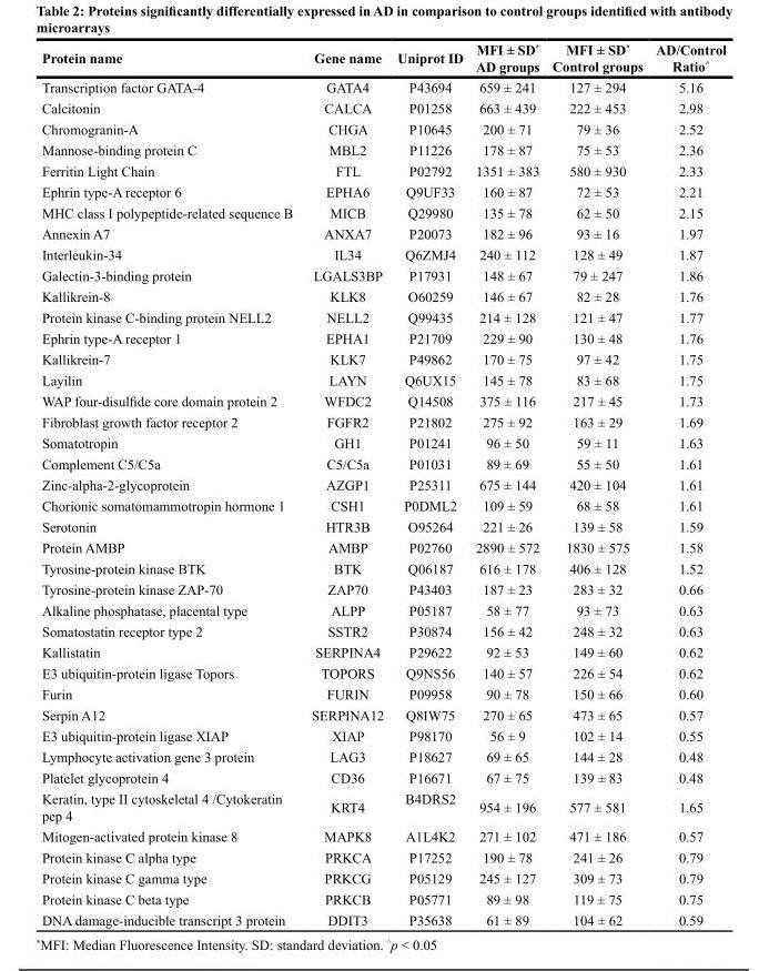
<table><thead><tr><td>Protein name</td><td>Gene name</td><td>Uniprot ID</td><td>MFI ± SD* AD groups</td><td>MFI ± SD* Control groups</td><td>AD/Control Ratio<sup>^</sup></td></tr></thead><tbody><tr><td>Transcription factor GATA-4</td><td>GATA4</td><td>P43694</td><td>659 ± 241</td><td>127 ± 294</td><td>5.16</td></tr><tr><td>Calcitonin</td><td>CALCA</td><td>P01258</td><td>663 ± 439</td><td>222 ± 453</td><td>2.98</td></tr><tr><td>Chromogranin-A</td><td>CHGA</td><td>P10645</td><td>200 ± 71</td><td>79 ± 36</td><td>2.52</td></tr><tr><td>Mannose-binding protein C</td><td>MBL2</td><td>P11226</td><td>178 ± 87</td><td>75 ± 53</td><td>2.36</td></tr><tr><td>Ferritin Light Chain</td><td>FTL</td><td>P02792</td><td>1351 ± 383</td><td>580 ± 930</td><td>2.33</td></tr><tr><td>Ephrin type-A receptor 6</td><td>EPHA6</td><td>Q9UF33</td><td>160 ± 87</td><td>72 ± 53</td><td>2.21</td></tr><tr><td>MHC class I polypeptide-related sequence B</td><td>MICB</td><td>Q29980</td><td>135 ± 78</td><td>62 ± 50</td><td>2.15</td></tr><tr><td>Annexin A7</td><td>ANXA7</td><td>P20073</td><td>182 ± 96</td><td>93 ± 16</td><td>1.97</td></tr><tr><td>Interleukin-34</td><td>IL34</td><td>Q6ZMJ4</td><td>240 ± 112</td><td>128 ± 49</td><td>1.87</td></tr><tr><td>Galectin-3-binding protein</td><td>LGALS3BP</td><td>P17931</td><td>148 ± 67</td><td>79 ± 247</td><td>1.86</td></tr><tr><td>Kallikrein-8</td><td>KLK8</td><td>O60259</td><td>146 ± 67</td><td>82 ± 28</td><td>1.76</td></tr><tr><td>Protein kinase C-binding protein NELL2</td><td>NELL2</td><td>Q99435</td><td>214 ± 128</td><td>121 ± 47</td><td>1.77</td></tr><tr><td>Ephrin type-A receptor 1</td><td>EPHA1</td><td>P21709</td><td>229 ± 90</td><td>130 ± 48</td><td>1.76</td></tr><tr><td>Kallikrein-7</td><td>KLK7</td><td>P49862</td><td>170 ± 75</td><td>97 ± 42</td><td>1.75</td></tr><tr><td>Layilin</td><td>LAYN</td><td>Q6UX15</td><td>145 ± 78</td><td>83 ± 68</td><td>1.75</td></tr><tr><td>WAP four-disulfide core domain protein 2</td><td>WFDC2</td><td>Q14508</td><td>375 ± 116</td><td>217 ± 45</td><td>1.73</td></tr><tr><td>Fibroblast growth factor receptor 2</td><td>FGFR2</td><td>P21802</td><td>275 ± 92</td><td>163 ± 29</td><td>1.69</td></tr><tr><td>Somatotropin</td><td>GH1</td><td>P01241</td><td>96 ± 50</td><td>59 ± 11</td><td>1.63</td></tr><tr><td>Complement C5/C5a</td><td>C5/C5a</td><td>P01031</td><td>89 ± 69</td><td>55 ± 50</td><td>1.61</td></tr><tr><td>Zinc-alpha-2-glycoprotein</td><td>AZGP1</td><td>P25311</td><td>675 ± 144</td><td>420 ± 104</td><td>1.61</td></tr><tr><td>Chorionic somatomammotropin hormone 1</td><td>CSH1</td><td>P0DML2</td><td>109 ± 59</td><td>68 ± 58</td><td>1.61</td></tr><tr><td>Serotonin</td><td>HTR3B</td><td>O95264</td><td>221 ± 26</td><td>139 ± 58</td><td>1.59</td></tr><tr><td>Protein AMBP</td><td>AMBP</td><td>P02760</td><td>2890 ± 572</td><td>1830 ± 575</td><td>1.58</td></tr><tr><td>Tyrosine-protein kinase BTK</td><td>BTK</td><td>Q06187</td><td>616 ± 178</td><td>406 ± 128</td><td>1.52</td></tr><tr><td>Tyrosine-protein kinase ZAP-70</td><td>ZAP70</td><td>P43403</td><td>187 ± 23</td><td>283 ± 32</td><td>0.66</td></tr><tr><td>Alkaline phosphatase, placental type</td><td>ALPP</td><td>P05187</td><td>58 ± 77</td><td>93 ± 73</td><td>0.63</td></tr><tr><td>Somatostatin receptor type 2</td><td>SSTR2</td><td>P30874</td><td>156 ± 42</td><td>248 ± 32</td><td>0.63</td></tr><tr><td>Kallistatin</td><td>SERPINA4</td><td>P29622</td><td>92 ± 53</td><td>149 ± 60</td><td>0.62</td></tr><tr><td>E3 ubiquitin-protein ligase Topors</td><td>TOPORS</td><td>Q9NS56</td><td>140 ± 57</td><td>226 ± 54</td><td>0.62</td></tr><tr><td>Furin</td><td>FURIN</td><td>P09958</td><td>90 ± 78</td><td>150 ± 66</td><td>0.60</td></tr><tr><td>Serpin A12</td><td>SERPINA12</td><td>Q8IW75</td><td>270 ± 65</td><td>473 ± 65</td><td>0.57</td></tr><tr><td>E3 ubiquitin-protein ligase XIAP</td><td>XIAP</td><td>P98170</td><td>56 ± 9</td><td>102 ± 14</td><td>0.55</td></tr><tr><td>Lymphocyte activation gene 3 protein</td><td>LAG3</td><td>P18627</td><td>69 ± 65</td><td>144 ± 28</td><td>0.48</td></tr><tr><td>Platelet glycoprotein 4</td><td>CD36</td><td>P16671</td><td>67 ± 75</td><td>139 ± 83</td><td>0.48</td></tr><tr><td>Keratin, type II cytoskeletal 4 /Cytokeratin pep 4</td><td>KRT4</td><td>B4DRS2</td><td>954 ± 196</td><td>577 ± 581</td><td>1.65</td></tr><tr><td>Mitogen-activated protein kinase 8</td><td>MAPK8</td><td>A1L4K2</td><td>271 ± 102</td><td>471 ± 186</td><td>0.57</td></tr><tr><td>Protein kinase C alpha type</td><td>PRKCA</td><td>P17252</td><td>190 ± 78</td><td>241 ± 26</td><td>0.79</td></tr><tr><td>Protein kinase C gamma type</td><td>PRKCG</td><td>P05129</td><td>245 ± 127</td><td>309 ± 73</td><td>0.79</td></tr><tr><td>Protein kinase C beta type</td><td>PRKCB</td><td>P05771</td><td>89 ± 98</td><td>119 ± 75</td><td>0.75</td></tr><tr><td>DNA damage-inducible transcript 3 protein</td><td>DDIT3</td><td>P35638</td><td>61 ± 89</td><td>104 ± 62</td><td>0.59</td></tr></tbody></table>